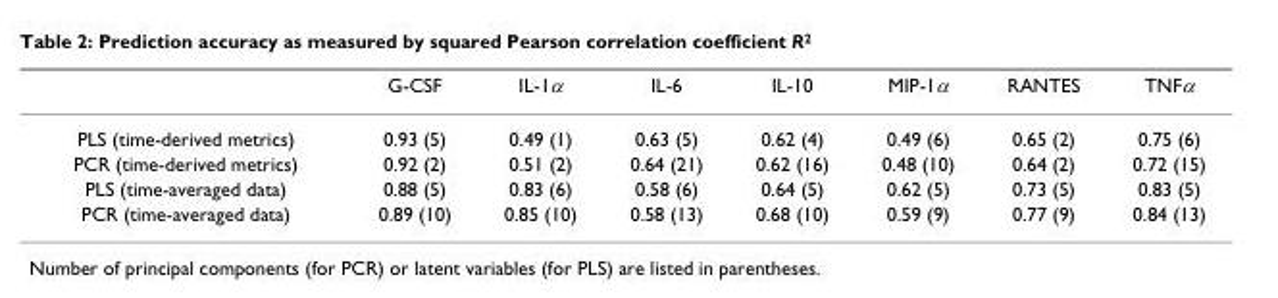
<table><thead><tr><td></td><td>G-CSF</td><td>IL-1α</td><td>IL-6</td><td>IL-10</td><td>MIP-1α</td><td>RANTES</td><td>TNFα</td></tr></thead><tbody><tr><td>PLS (time-derived metrics)</td><td>0.93 (5)</td><td>0.49 (1)</td><td>0.63 (5)</td><td>0.62 (4)</td><td>0.49 (6)</td><td>0.65 (2)</td><td>0.75 (6)</td></tr><tr><td>PCR (time-derived metrics)</td><td>0.92 (2)</td><td>0.51 (2)</td><td>0.64 (21)</td><td>0.62 (16)</td><td>0.48 (10)</td><td>0.64 (2)</td><td>0.72 (15)</td></tr><tr><td>PLS (time-averaged data)</td><td>0.88 (5)</td><td>0.83 (6)</td><td>0.58 (6)</td><td>0.64 (5)</td><td>0.62 (5)</td><td>0.73 (5)</td><td>0.83 (5)</td></tr><tr><td>PCR (time-averaged data)</td><td>0.89 (10)</td><td>0.85 (10)</td><td>0.58 (13)</td><td>0.68 (10)</td><td>0.59 (9)</td><td>0.77 (9)</td><td>0.84 (13)</td></tr></tbody></table>